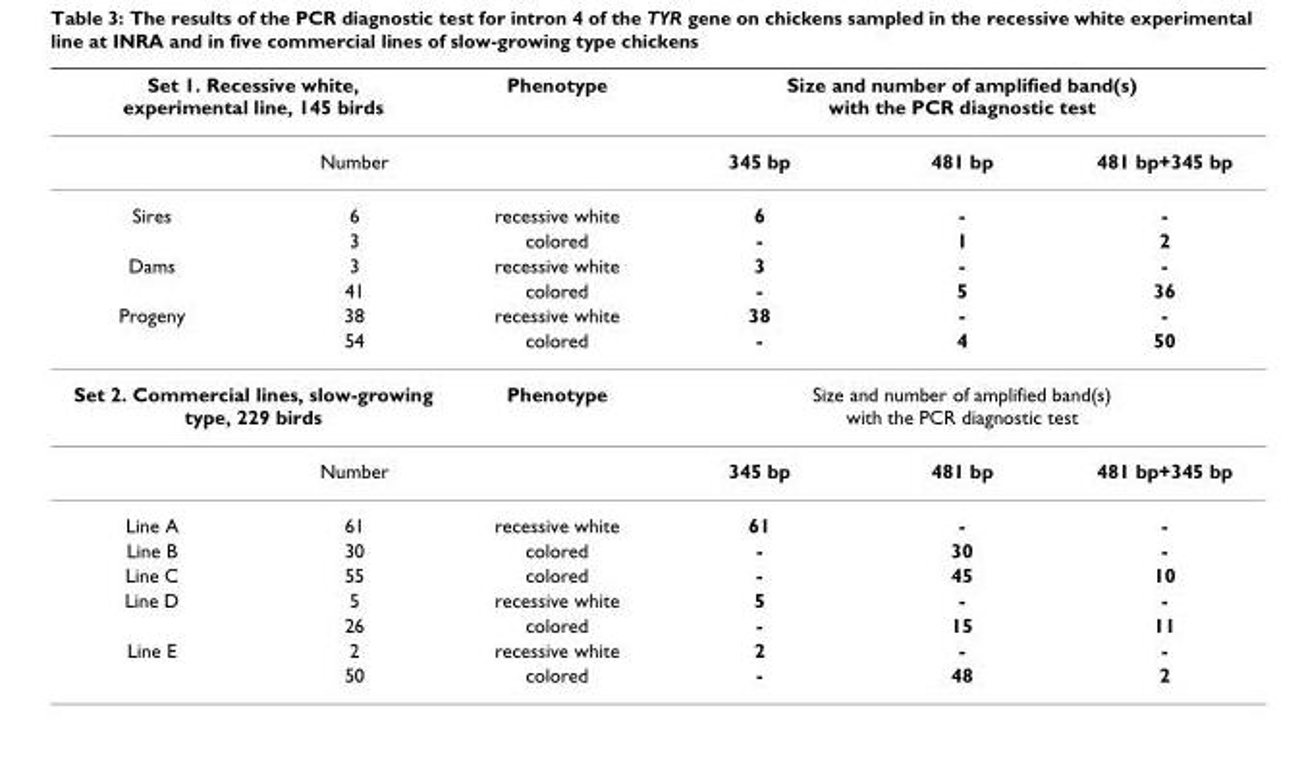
<table><thead><tr><td colspan="2">Set 1. Recessive white, experimental line, 145 birds</td><td rowspan="2">Phenotype</td><td colspan="3">Size and number of amplified band(s) with the PCR diagnostic test</td></tr><tr><td></td><td>Number</td><td>345 bp</td><td>481 bp</td><td>481 bp+345 bp</td></tr></thead><tbody><tr><td rowspan="2">Sires</td><td>6</td><td>recessive white</td><td>6</td><td>-</td><td>-</td></tr><tr><td>3</td><td>colored</td><td>-</td><td>1</td><td>2</td></tr><tr><td rowspan="2">Dams</td><td>3</td><td>recessive white</td><td>3</td><td>-</td><td>-</td></tr><tr><td>41</td><td>colored</td><td>-</td><td>5</td><td>36</td></tr><tr><td rowspan="2">Progeny</td><td>38</td><td>recessive white</td><td>38</td><td>-</td><td>-</td></tr><tr><td>54</td><td>colored</td><td>-</td><td>4</td><td>50</td></tr><tr><td colspan="2">Set 2. Commercial lines, slow-growing type, 229 birds</td><td>Phenotype</td><td colspan="3">Size and number of amplified band(s) with the PCR diagnostic test</td></tr><tr><td></td><td>Number</td><td></td><td>345 bp</td><td>481 bp</td><td>481 bp+345 bp</td></tr><tr><td>Line A</td><td>61</td><td>recessive white</td><td>61</td><td>-</td><td>-</td></tr><tr><td>Line B</td><td>30</td><td>colored</td><td>-</td><td>30</td><td>-</td></tr><tr><td>Line C</td><td>55</td><td>colored</td><td>-</td><td>45</td><td>10</td></tr><tr><td rowspan="2">Line D</td><td>5</td><td>recessive white</td><td>5</td><td>-</td><td>-</td></tr><tr><td>26</td><td>colored</td><td>-</td><td>15</td><td>11</td></tr><tr><td rowspan="2">Line E</td><td>2</td><td>recessive white</td><td>2</td><td>-</td><td>-</td></tr><tr><td>50</td><td>colored</td><td>-</td><td>48</td><td>2</td></tr></tbody></table>